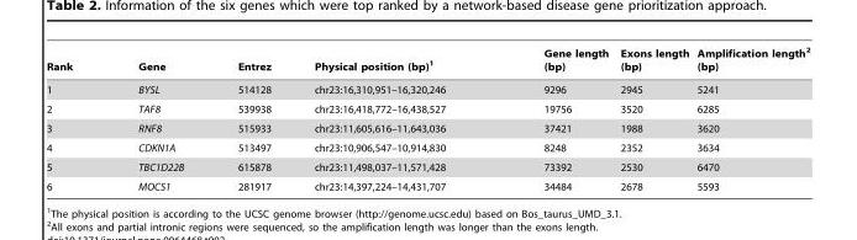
<table><thead><tr><td>Rank</td><td>Gene</td><td>Entrez</td><td>Physical position (bp)<sup>1</sup></td><td>Gene length (bp)</td><td>Exons length (bp)</td><td>Amplification length<sup>2</sup> (bp)</td></tr></thead><tbody><tr><td>1</td><td>BYSL</td><td>514128</td><td>chr23:16,310,951–16,320,246</td><td>9296</td><td>2945</td><td>5241</td></tr><tr><td>2</td><td>TAF8</td><td>539938</td><td>chr23:16,418,772–16,438,527</td><td>19756</td><td>3520</td><td>6285</td></tr><tr><td>3</td><td>RNF8</td><td>515933</td><td>chr23:11,605,616–11,643,036</td><td>37421</td><td>1988</td><td>3620</td></tr><tr><td>4</td><td>CDKN1A</td><td>513497</td><td>chr23:10,906,547–10,914,830</td><td>8248</td><td>2352</td><td>3634</td></tr><tr><td>5</td><td>TBC1D22B</td><td>615878</td><td>chr23:11,498,037–11,571,428</td><td>73392</td><td>2530</td><td>6470</td></tr><tr><td>6</td><td>MOCS1</td><td>281917</td><td>chr23:14,397,224–14,431,707</td><td>34484</td><td>2678</td><td>5593</td></tr></tbody></table>